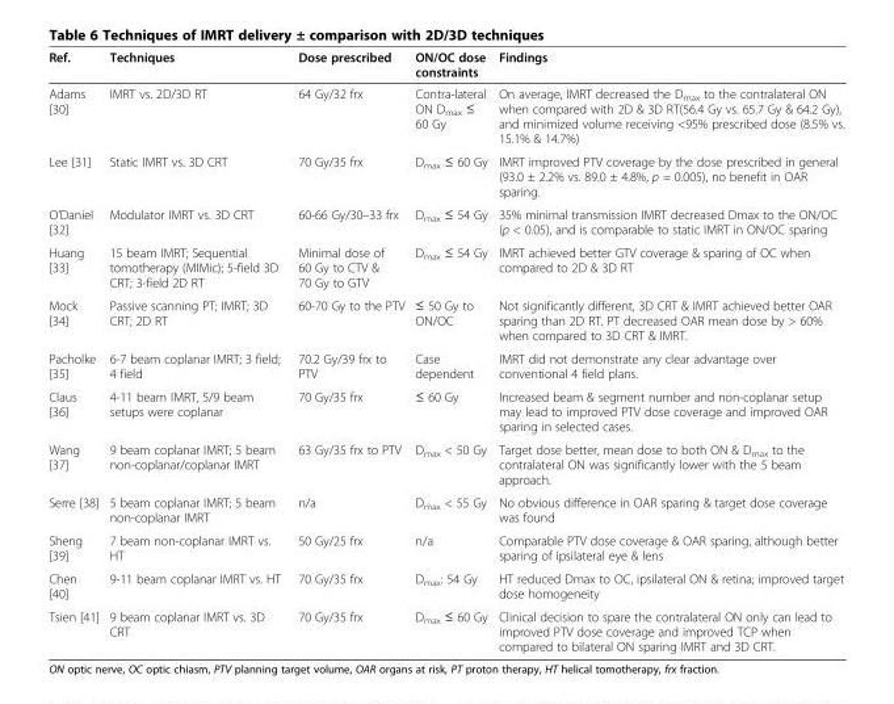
<table><thead><tr><td>Ref.</td><td>Techniques</td><td>Dose prescribed</td><td>ON/OC dose constraints</td><td>Findings</td></tr></thead><tbody><tr><td>Adams [30]</td><td>IMRT vs. 2D/3D RT</td><td>64 Gy/32 frx</td><td>Contra-lateral ON D<sub>max</sub> ≤ 60 Gy</td><td>On average, IMRT decreased the D<sub>max</sub> to the contralateral ON when compared with 2D &amp; 3D RT(56.4 Gy vs. 65.7 Gy &amp; 64.2 Gy), and minimized volume receiving &lt;95% prescribed dose (8.5% vs. 15.1% &amp; 14.7%)</td></tr><tr><td>Lee [31]</td><td>Static IMRT vs. 3D CRT</td><td>70 Gy/35 frx</td><td>D<sub>max</sub> ≤ 60 Gy</td><td>IMRT improved PTV coverage by the dose prescribed in general (93.0 ± 2.2% vs. 89.0 ± 4.8%, p = 0.005), no benefit in OAR sparing.</td></tr><tr><td>O’Daniel [32]</td><td>Modulator IMRT vs. 3D CRT</td><td>60-66 Gy/30–33 frx</td><td>D<sub>max</sub> ≤ 54 Gy</td><td>35% minimal transmission IMRT decreased Dmax to the ON/OC (p &lt; 0.05), and is comparable to static IMRT in ON/OC sparing</td></tr><tr><td>Huang [33]</td><td>15 beam IMRT; Sequential tomotherapy (MIMic); 5-field 3D CRT; 3-field 2D RT</td><td>Minimal dose of 60 Gy to CTV &amp; 70 Gy to GTV</td><td>D<sub>max</sub> ≤ 54 Gy</td><td>IMRT achieved better GTV coverage &amp; sparing of OC when compared to 2D &amp; 3D RT</td></tr><tr><td>Mock [34]</td><td>Passive scanning PT; IMRT; 3D CRT; 2D RT</td><td>60-70 Gy to the PTV</td><td>≤ 50 Gy to ON/OC</td><td>Not significantly different, 3D CRT &amp; IMRT achieved better OAR sparing than 2D RT. PT decreased OAR mean dose by &gt; 60% when compared to 3D CRT &amp; IMRT.</td></tr><tr><td>Pacholke [35]</td><td>6-7 beam coplanar IMRT; 3 field; 4 field</td><td>70.2 Gy/39 frx to PTV</td><td>Case dependent</td><td>IMRT did not demonstrate any clear advantage over conventional 4 field plans.</td></tr><tr><td>Claus [36]</td><td>4-11 beam IMRT, 5/9 beam setups were coplanar</td><td>70 Gy/35 frx</td><td>≤ 60 Gy</td><td>Increased beam &amp; segment number and non-coplanar setup may lead to improved PTV dose coverage and improved OAR sparing in selected cases.</td></tr><tr><td>Wang [37]</td><td>9 beam coplanar IMRT; 5 beam non-coplanar/coplanar IMRT</td><td>63 Gy/35 frx to PTV</td><td>D<sub>max</sub> &lt; 50 Gy</td><td>Target dose better, mean dose to both ON &amp; D<sub>max</sub> to the contralateral ON was significantly lower with the 5 beam approach.</td></tr><tr><td>Serre [38]</td><td>5 beam coplanar IMRT; 5 beam non-coplanar IMRT</td><td>n/a</td><td>D<sub>max</sub> &lt; 55 Gy</td><td>No obvious difference in OAR sparing &amp; target dose coverage was found</td></tr><tr><td>Sheng [39]</td><td>7 beam non-coplanar IMRT vs. HT</td><td>50 Gy/25 frx</td><td>n/a</td><td>Comparable PTV dose coverage &amp; OAR sparing, although better sparing of ipsilateral eye &amp; lens</td></tr><tr><td>Chen [40]</td><td>9-11 beam coplanar IMRT vs. HT</td><td>70 Gy/35 frx</td><td>D<sub>max</sub>: 54 Gy</td><td>HT reduced Dmax to OC, ipsilateral ON &amp; retina; improved target dose homogeneity</td></tr><tr><td>Tsien [41]</td><td>9 beam coplanar IMRT vs. 3D CRT</td><td>70 Gy/35 frx</td><td>D<sub>max</sub> ≤ 60 Gy</td><td>Clinical decision to spare the contralateral ON only can lead to improved PTV dose coverage and improved TCP when compared to bilateral ON sparing IMRT and 3D CRT.</td></tr></tbody></table>